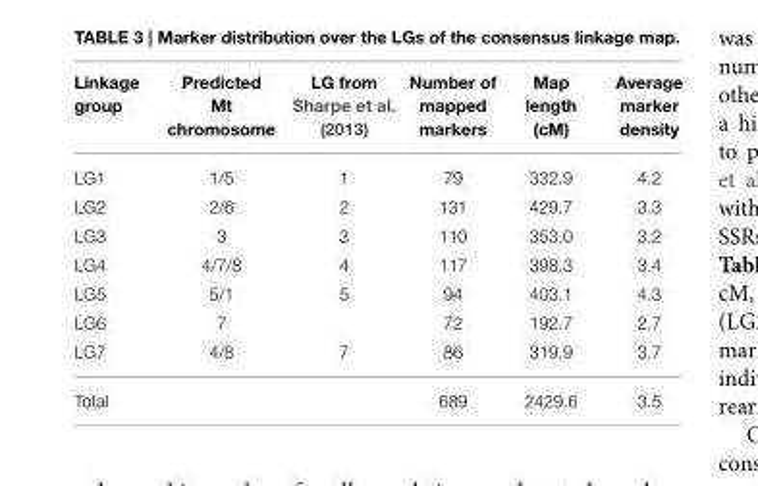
<table><thead><tr><td>Linkage group</td><td>Predicted Mt chromosome</td><td>LG from Sharpe et al. (2013)</td><td>Number of mapped markers</td><td>Map length (cM)</td><td>Average marker density</td></tr></thead><tbody><tr><td>LG1</td><td>1/5</td><td>1</td><td>79</td><td>332.9</td><td>4.2</td></tr><tr><td>LG2</td><td>2/6</td><td>2</td><td>131</td><td>429.7</td><td>3.3</td></tr><tr><td>LG3</td><td>3</td><td>3</td><td>110</td><td>353.0</td><td>3.2</td></tr><tr><td>LG4</td><td>4/7/8</td><td>4</td><td>117</td><td>398.3</td><td>3.4</td></tr><tr><td>LG5</td><td>5/1</td><td>5</td><td>94</td><td>403.1</td><td>4.3</td></tr><tr><td>LG6</td><td>7</td><td></td><td>72</td><td>192.7</td><td>2.7</td></tr><tr><td>LG7</td><td>4/8</td><td>7</td><td>86</td><td>319.9</td><td>3.7</td></tr><tr><td>Total</td><td></td><td></td><td>689</td><td>2429.6</td><td>3.5</td></tr></tbody></table>